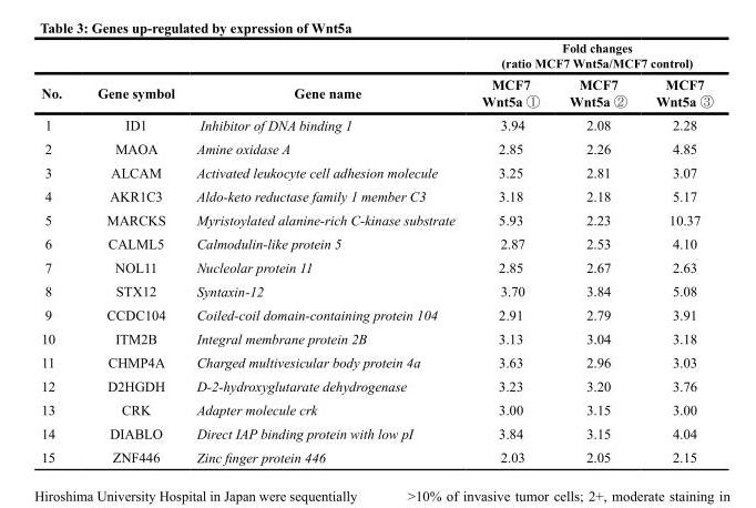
<table><thead><tr><td rowspan="2">No.</td><td rowspan="2">Gene symbol</td><td rowspan="2">Gene name</td><td colspan="3">Fold changes (ratio MCF7 Wnt5a/MCF7 control)</td></tr><tr><td>MCF7 Wnt5a ①</td><td>MCF7 Wnt5a ②</td><td>MCF7 Wnt5a ③</td></tr></thead><tbody><tr><td>1</td><td>ID1</td><td>Inhibitor of DNA binding 1</td><td>3.94</td><td>2.08</td><td>2.28</td></tr><tr><td>2</td><td>MAOA</td><td>Amine oxidase A</td><td>2.85</td><td>2.26</td><td>4.85</td></tr><tr><td>3</td><td>ALCAM</td><td>Activated leukocyte cell adhesion molecule</td><td>3.25</td><td>2.81</td><td>3.07</td></tr><tr><td>4</td><td>AKR1C3</td><td>Aldo-keto reductase family 1 member C3</td><td>3.18</td><td>2.18</td><td>5.17</td></tr><tr><td>5</td><td>MARCKS</td><td>Myristoylated alanine-rich C-kinase substrate</td><td>5.93</td><td>2.23</td><td>10.37</td></tr><tr><td>6</td><td>CALML5</td><td>Calmodulin-like protein 5</td><td>2.87</td><td>2.53</td><td>4.10</td></tr><tr><td>7</td><td>NOL11</td><td>Nucleolar protein 11</td><td>2.85</td><td>2.67</td><td>2.63</td></tr><tr><td>8</td><td>STX12</td><td>Syntaxin-12</td><td>3.70</td><td>3.84</td><td>5.08</td></tr><tr><td>9</td><td>CCDC104</td><td>Coiled-coil domain-containing protein 104</td><td>2.91</td><td>2.79</td><td>3.91</td></tr><tr><td>10</td><td>ITM2B</td><td>Integral membrane protein 2B</td><td>3.13</td><td>3.04</td><td>3.18</td></tr><tr><td>11</td><td>CHMP4A</td><td>Charged multivesicular body protein 4a</td><td>3.63</td><td>2.96</td><td>3.03</td></tr><tr><td>12</td><td>D2HGDH</td><td>D-2-hydroxyglutarate dehydrogenase</td><td>3.23</td><td>3.20</td><td>3.76</td></tr><tr><td>13</td><td>CRK</td><td>Adapter molecule crk</td><td>3.00</td><td>3.15</td><td>3.00</td></tr><tr><td>14</td><td>DIABLO</td><td>Direct IAP binding protein with low pI</td><td>3.84</td><td>3.15</td><td>4.04</td></tr><tr><td>15</td><td>ZNF446</td><td>Zinc finger protein 446</td><td>2.03</td><td>2.05</td><td>2.15</td></tr></tbody></table>